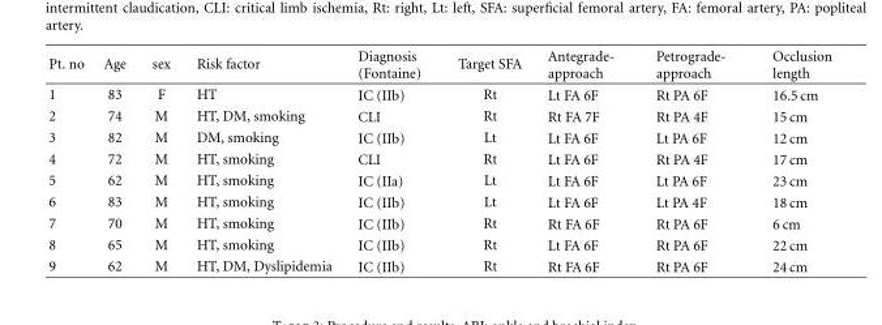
<table><thead><tr><td>Pt. no</td><td>Age</td><td>sex</td><td>Risk factor</td><td>Diagnosis (Fontaine)</td><td>Target SFA</td><td>Antegrade- approach</td><td>Petrograde- approach</td><td>Occlusion length</td></tr></thead><tbody><tr><td>1</td><td>83</td><td>F</td><td>HT</td><td>IC (IIb)</td><td>Rt</td><td>Lt FA 6F</td><td>Rt PA 6F</td><td>16.5 cm</td></tr><tr><td>2</td><td>74</td><td>M</td><td>HT, DM, smoking</td><td>CLI</td><td>Rt</td><td>Rt FA 7F</td><td>Rt PA 4F</td><td>15 cm</td></tr><tr><td>3</td><td>82</td><td>M</td><td>DM, smoking</td><td>IC (IIb)</td><td>Lt</td><td>Lt FA 6F</td><td>Lt PA 6F</td><td>12 cm</td></tr><tr><td>4</td><td>72</td><td>M</td><td>HT, smoking</td><td>CLI</td><td>Rt</td><td>Lt FA 6F</td><td>Rt PA 4F</td><td>17 cm</td></tr><tr><td>5</td><td>62</td><td>M</td><td>HT, smoking</td><td>IC (IIa)</td><td>Lt</td><td>Lt FA 6F</td><td>Lt PA 6F</td><td>23 cm</td></tr><tr><td>6</td><td>83</td><td>M</td><td>HT, smoking</td><td>IC (IIb)</td><td>Lt</td><td>Lt FA 6F</td><td>Lt PA 4F</td><td>18 cm</td></tr><tr><td>7</td><td>70</td><td>M</td><td>HT, smoking</td><td>IC (IIb)</td><td>Rt</td><td>Rt FA 6F</td><td>Rt PA 6F</td><td>6 cm</td></tr><tr><td>8</td><td>65</td><td>M</td><td>HT, smoking</td><td>IC (IIb)</td><td>Rt</td><td>Lt FA 6F</td><td>Rt PA 6F</td><td>22 cm</td></tr><tr><td>9</td><td>62</td><td>M</td><td>HT, DM, Dyslipidemia</td><td>IC (IIb)</td><td>Rt</td><td>Rt FA 6F</td><td>Rt PA 6F</td><td>24 cm</td></tr></tbody></table>